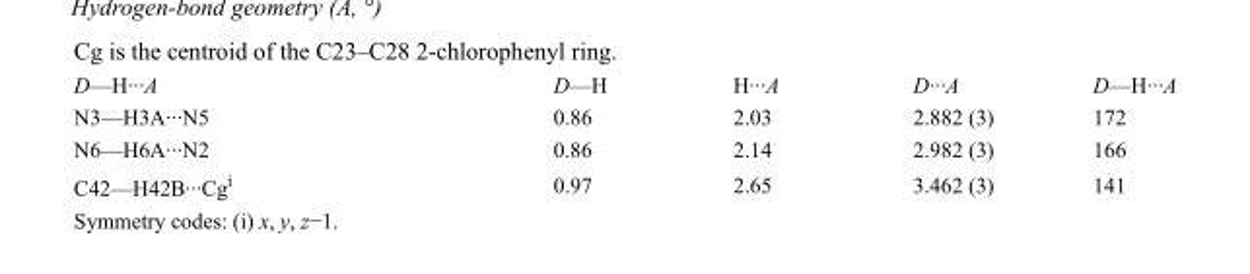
<table><tbody><tr><td>D—H···A</td><td>D—H</td><td>H···A</td><td>D···A</td><td>D—H···A</td></tr><tr><td>N3—H3A···N5</td><td>0.86</td><td>2.03</td><td>2.882 (3)</td><td>172</td></tr><tr><td>N6—H6A···N2</td><td>0.86</td><td>2.14</td><td>2.982 (3)</td><td>166</td></tr><tr><td>C42—H42B···Cg<sup>i</sup></td><td>0.97</td><td>2.65</td><td>3.462 (3)</td><td>141</td></tr></tbody></table>